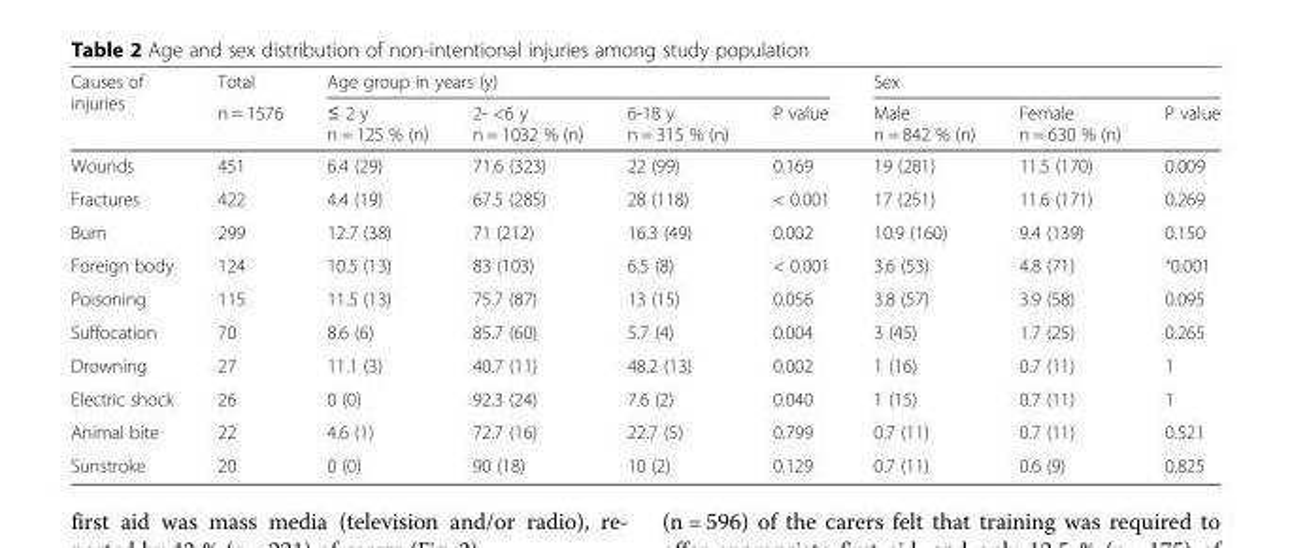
<table><thead><tr><td rowspan="2">Causes of injuries</td><td rowspan="2">Total n = 1576</td><td colspan="4">Age group in years (y)</td><td colspan="3">Sex</td></tr><tr><td>≤ 2 y n = 125 % (n)</td><td>2- &lt;6 y n = 1032 % (n)</td><td>6-18 y n = 315 % (n)</td><td>P value</td><td>Male n = 842 % (n)</td><td>Female n = 630 % (n)</td><td>P value</td></tr></thead><tbody><tr><td>Wounds</td><td>451</td><td>6.4 (29)</td><td>71.6 (323)</td><td>22 (99)</td><td>0.169</td><td>19 (281)</td><td>11.5 (170)</td><td>0.009</td></tr><tr><td>Fractures</td><td>422</td><td>4.4 (19)</td><td>67.5 (285)</td><td>28 (118)</td><td>&lt; 0.001</td><td>17 (251)</td><td>11.6 (171)</td><td>0.269</td></tr><tr><td>Burn</td><td>299</td><td>12.7 (38)</td><td>71 (212)</td><td>16.3 (49)</td><td>0.002</td><td>10.9 (160)</td><td>9.4 (139)</td><td>0.150</td></tr><tr><td>Foreign body</td><td>124</td><td>10.5 (13)</td><td>83 (103)</td><td>6.5 (8)</td><td>&lt; 0.001</td><td>3.6 (53)</td><td>4.8 (71)</td><td>˂0.001</td></tr><tr><td>Poisoning</td><td>115</td><td>11.5 (13)</td><td>75.7 (87)</td><td>13 (15)</td><td>0.056</td><td>3.8 (57)</td><td>3.9 (58)</td><td>0.095</td></tr><tr><td>Suffocation</td><td>70</td><td>8.6 (6)</td><td>85.7 (60)</td><td>5.7 (4)</td><td>0.004</td><td>3 (45)</td><td>1.7 (25)</td><td>0.265</td></tr><tr><td>Drowning</td><td>27</td><td>11.1 (3)</td><td>40.7 (11)</td><td>48.2 (13)</td><td>0.002</td><td>1 (16)</td><td>0.7 (11)</td><td>1</td></tr><tr><td>Electric shock</td><td>26</td><td>0 (0)</td><td>92.3 (24)</td><td>7.6 (2)</td><td>0.040</td><td>1 (15)</td><td>0.7 (11)</td><td>1</td></tr><tr><td>Animal bite</td><td>22</td><td>4.6 (1)</td><td>72.7 (16)</td><td>22.7 (5)</td><td>0.799</td><td>0.7 (11)</td><td>0.7 (11)</td><td>0.521</td></tr><tr><td>Sunstroke</td><td>20</td><td>0 (0)</td><td>90 (18)</td><td>10 (2)</td><td>0.129</td><td>0.7 (11)</td><td>0.6 (9)</td><td>0.825</td></tr></tbody></table>